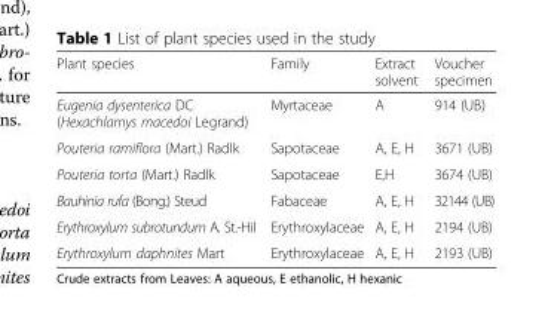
<table><thead><tr><td>Plant species</td><td>Family</td><td>Extract solvent</td><td>Voucher specimen</td></tr></thead><tbody><tr><td>Eugenia dysenterica DC (Hexachlamys macedoi Legrand)</td><td>Myrtaceae</td><td>A</td><td>914 (UB)</td></tr><tr><td>Pouteria ramiflora (Mart.) Radlk</td><td>Sapotaceae</td><td>A, E, H</td><td>3671 (UB)</td></tr><tr><td>Pouteria torta (Mart.) Radlk</td><td>Sapotaceae</td><td>E,H</td><td>3674 (UB)</td></tr><tr><td>Bauhinia rufa (Bong.) Steud</td><td>Fabaceae</td><td>A, E, H</td><td>32144 (UB)</td></tr><tr><td>Erythroxylum subrotundum A. St.-Hil</td><td>Erythroxylaceae</td><td>A, E, H</td><td>2194 (UB)</td></tr><tr><td>Erythroxylum daphnites Mart</td><td>Erythroxylaceae</td><td>A, E, H</td><td>2193 (UB)</td></tr></tbody></table>